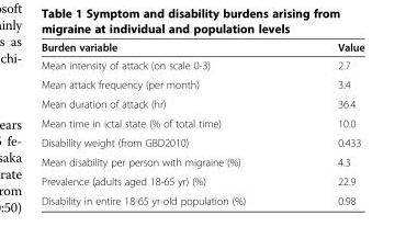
<table><thead><tr><td>Burden variable</td><td>Value</td></tr></thead><tbody><tr><td>Mean intensity of attack (on scale 0-3)</td><td>2.7</td></tr><tr><td>Mean attack frequency (per month)</td><td>3.4</td></tr><tr><td>Mean duration of attack (hr)</td><td>36.4</td></tr><tr><td>Mean time in ictal state (% of total time)</td><td>10.0</td></tr><tr><td>Disability weight (from GBD2010)</td><td>0.433</td></tr><tr><td>Mean disability per person with migraine (%)</td><td>4.3</td></tr><tr><td>Prevalence (adults aged 18-65 yr) (%)</td><td>22.9</td></tr><tr><td>Disability in entire 18-65 yr-old population (%)</td><td>0.98</td></tr></tbody></table>